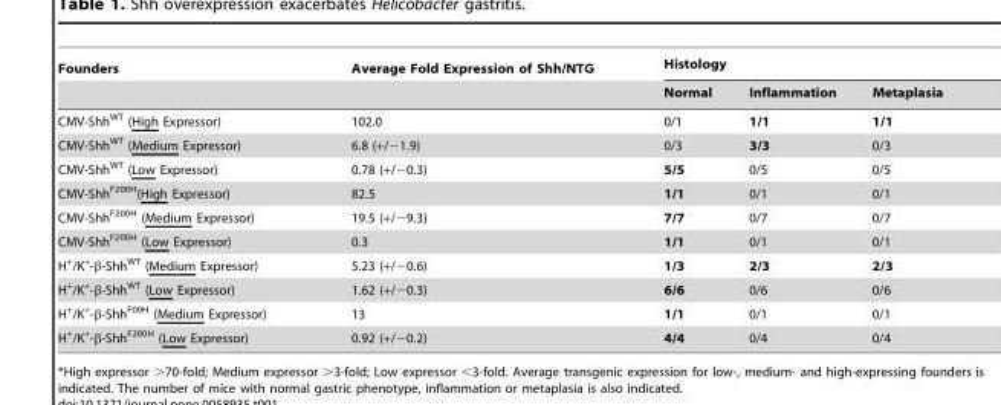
<table><thead><tr><td rowspan="2">Founders</td><td rowspan="2">Average Fold Expression of Shh/NTG</td><td colspan="3">Histology</td></tr><tr><td>Normal</td><td>Inflammation</td><td>Metaplasia</td></tr></thead><tbody><tr><td>CMV-Shh<sup>WT</sup> (High Expressor)</td><td>102.0</td><td>0/1</td><td>1/1</td><td>1/1</td></tr><tr><td>CMV-Shh<sup>WT</sup> (Medium Expressor)</td><td>6.8 (+/−1.9)</td><td>0/3</td><td>3/3</td><td>0/3</td></tr><tr><td>CMV-Shh<sup>WT</sup> (Low Expressor)</td><td>0.78 (+/−0.3)</td><td>5/5</td><td>0/5</td><td>0/5</td></tr><tr><td>CMV-Shh<sup>F200H</sup>(High Expressor)</td><td>82.5</td><td>1/1</td><td>0/1</td><td>0/1</td></tr><tr><td>CMV-Shh<sup>F200H</sup> (Medium Expressor)</td><td>19.5 (+/−9.3)</td><td>7/7</td><td>0/7</td><td>0/7</td></tr><tr><td>CMV-Shh<sup>F200H</sup> (Low Expressor)</td><td>0.3</td><td>1/1</td><td>0/1</td><td>0/1</td></tr><tr><td>H<sup>+</sup>/K<sup>+</sup>-β-Shh<sup>WT</sup> (Medium Expressor)</td><td>5.23 (+/−0.6)</td><td>1/3</td><td>2/3</td><td>2/3</td></tr><tr><td>H<sup>+</sup>/K<sup>+</sup>-β-Shh<sup>WT</sup> (Low Expressor)</td><td>1.62 (+/−0.3)</td><td>6/6</td><td>0/6</td><td>0/6</td></tr><tr><td>H<sup>+</sup>/K<sup>+</sup>-β-Shh<sup>F00H</sup> (Medium Expressor)</td><td>13</td><td>1/1</td><td>0/1</td><td>0/1</td></tr><tr><td>H<sup>+</sup>/K<sup>+</sup>-β-Shh<sup>F200H</sup> (Low Expressor)</td><td>0.92 (+/−0.2)</td><td>4/4</td><td>0/4</td><td>0/4</td></tr></tbody></table>